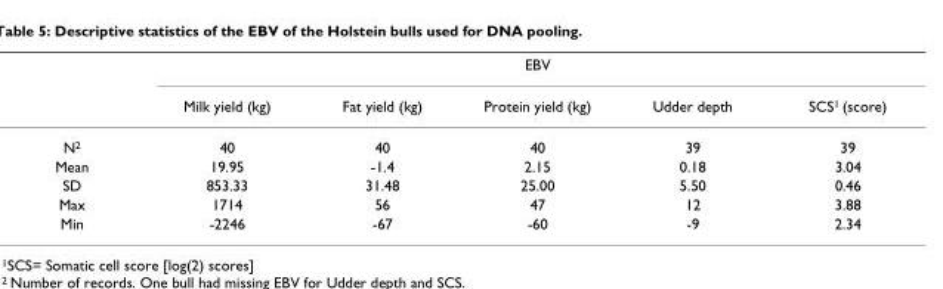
<table><thead><tr><td rowspan="2"></td><td colspan="5">EBV</td></tr><tr><td>Milk yield (kg)</td><td>Fat yield (kg)</td><td>Protein yield (kg)</td><td>Udder depth</td><td>SCS<sup>1</sup> (score)</td></tr></thead><tbody><tr><td>N<sup>2</sup></td><td>40</td><td>40</td><td>40</td><td>39</td><td>39</td></tr><tr><td>Mean</td><td>19.95</td><td>-1.4</td><td>2.15</td><td>0.18</td><td>3.04</td></tr><tr><td>SD</td><td>853.33</td><td>31.48</td><td>25.00</td><td>5.50</td><td>0.46</td></tr><tr><td>Max</td><td>1714</td><td>56</td><td>47</td><td>12</td><td>3.88</td></tr><tr><td>Min</td><td>-2246</td><td>-67</td><td>-60</td><td>-9</td><td>2.34</td></tr></tbody></table>